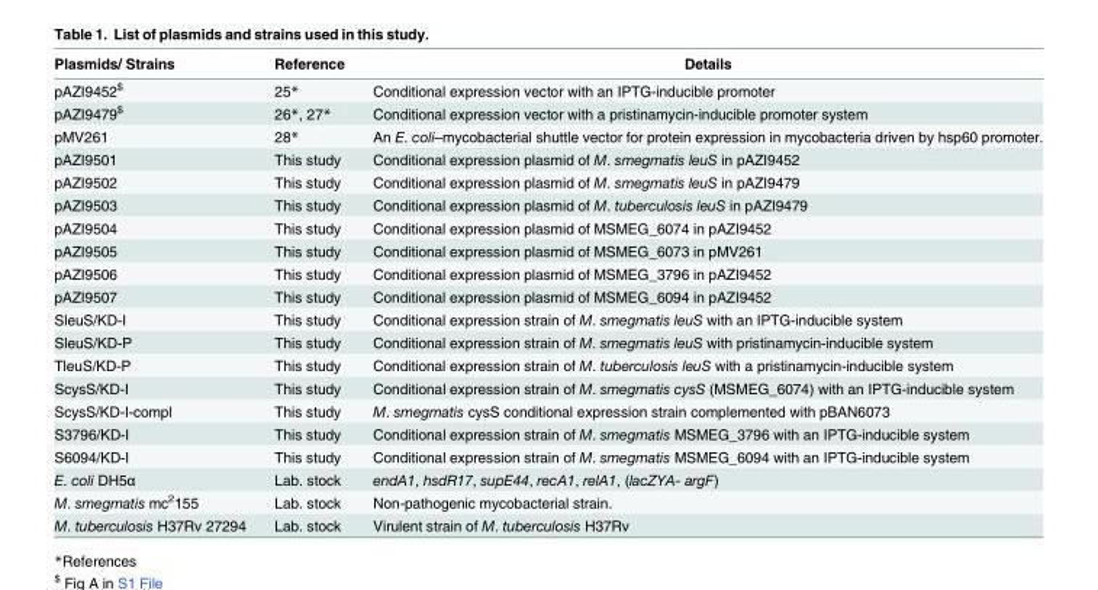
<table><thead><tr><td>Plasmids/ Strains</td><td>Reference</td><td>Details</td></tr></thead><tbody><tr><td>pAZI9452<sup>$</sup></td><td>25*</td><td>Conditional expression vector with an IPTG-inducible promoter</td></tr><tr><td>pAZI9479<sup>$</sup></td><td>26*, 27*</td><td>Conditional expression vector with a pristinamycin-inducible promoter system</td></tr><tr><td>pMV261</td><td>28*</td><td>An E. coli–mycobacterial shuttle vector for protein expression in mycobacteria driven by hsp60 promoter.</td></tr><tr><td>pAZI9501</td><td>This study</td><td>Conditional expression plasmid of M. smegmatis leuS in pAZI9452</td></tr><tr><td>pAZI9502</td><td>This study</td><td>Conditional expression plasmid of M. smegmatis leuS in pAZI9479</td></tr><tr><td>pAZI9503</td><td>This study</td><td>Conditional expression plasmid of M. tuberculosis leuS in pAZI9479</td></tr><tr><td>pAZI9504</td><td>This study</td><td>Conditional expression plasmid of MSMEG_6074 in pAZI9452</td></tr><tr><td>pAZI9505</td><td>This study</td><td>Conditional expression plasmid of MSMEG_6073 in pMV261</td></tr><tr><td>pAZI9506</td><td>This study</td><td>Conditional expression plasmid of MSMEG_3796 in pAZI9452</td></tr><tr><td>pAZI9507</td><td>This study</td><td>Conditional expression plasmid of MSMEG_6094 in pAZI9452</td></tr><tr><td>SleuS/KD-I</td><td>This study</td><td>Conditional expression strain of M. smegmatis leuS with an IPTG-inducible system</td></tr><tr><td>SleuS/KD-P</td><td>This study</td><td>Conditional expression strain of M. smegmatis leuS with pristinamycin-inducible system</td></tr><tr><td>TleuS/KD-P</td><td>This study</td><td>Conditional expression strain of M. tuberculosis leuS with a pristinamycin-inducible system</td></tr><tr><td>ScysS/KD-I</td><td>This study</td><td>Conditional expression strain of M. smegmatis cysS (MSMEG_6074) with an IPTG-inducible system</td></tr><tr><td>ScysS/KD-I-compl</td><td>This study</td><td>M. smegmatis cysS conditional expression strain complemented with pBAN6073</td></tr><tr><td>S3796/KD-I</td><td>This study</td><td>Conditional expression strain of M. smegmatis MSMEG_3796 with an IPTG-inducible system</td></tr><tr><td>S6094/KD-I</td><td>This study</td><td>Conditional expression strain of M. smegmatis MSMEG_6094 with an IPTG-inducible system</td></tr><tr><td>E. coli DH5α</td><td>Lab. stock</td><td>endA1, hsdR17, supE44, recA1, relA1, (lacZYA- argF)</td></tr><tr><td>M. smegmatis mc<sup>2</sup>155</td><td>Lab. stock</td><td>Non-pathogenic mycobacterial strain.</td></tr><tr><td>M. tuberculosis H37Rv 27294</td><td>Lab. stock</td><td>Virulent strain of M. tuberculosis H37Rv</td></tr></tbody></table>